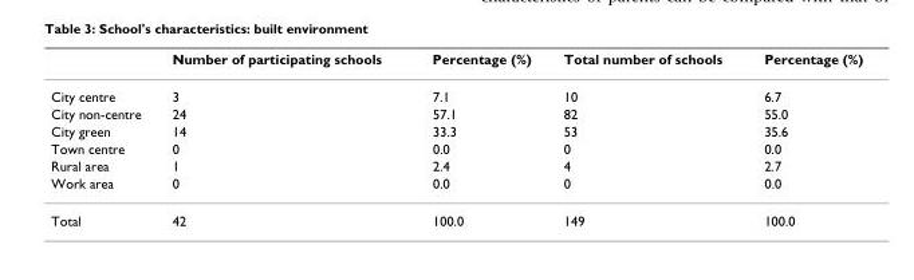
<table><thead><tr><td></td><td>Number of participating schools</td><td>Percentage (%)</td><td>Total number of schools</td><td>Percentage (%)</td></tr></thead><tbody><tr><td>City centre</td><td>3</td><td>7.1</td><td>10</td><td>6.7</td></tr><tr><td>City non-centre</td><td>24</td><td>57.1</td><td>82</td><td>55.0</td></tr><tr><td>City green</td><td>14</td><td>33.3</td><td>53</td><td>35.6</td></tr><tr><td>Town centre</td><td>0</td><td>0.0</td><td>0</td><td>0.0</td></tr><tr><td>Rural area</td><td>1</td><td>2.4</td><td>4</td><td>2.7</td></tr><tr><td>Work area</td><td>0</td><td>0.0</td><td>0</td><td>0.0</td></tr><tr><td>Total</td><td>42</td><td>100.0</td><td>149</td><td>100.0</td></tr></tbody></table>